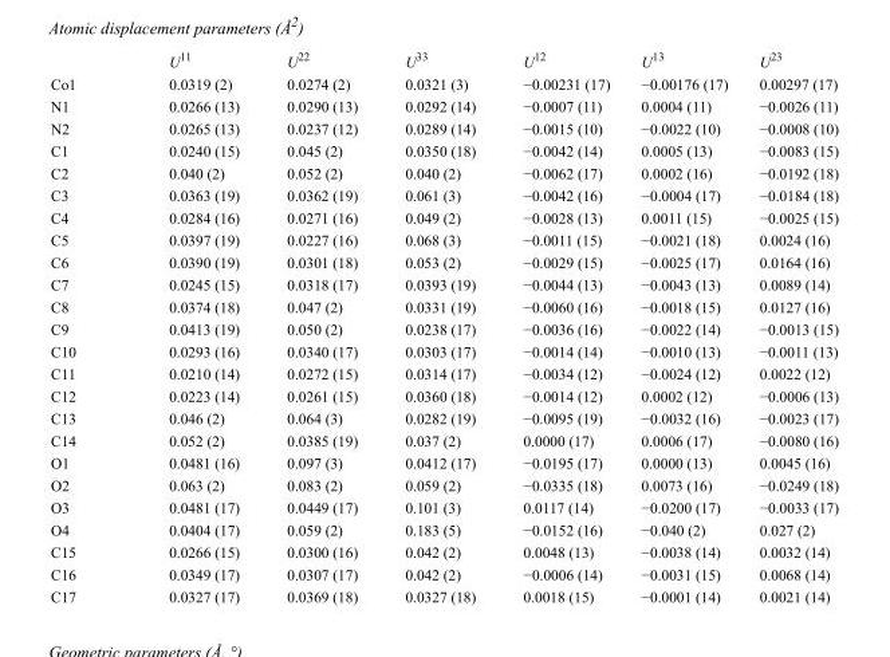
<table><thead><tr><td></td><td>U<sup>11</sup></td><td>U<sup>22</sup></td><td>U<sup>33</sup></td><td>U<sup>12</sup></td><td>U<sup>13</sup></td><td>U<sup>23</sup></td></tr></thead><tbody><tr><td>Co1</td><td>0.0319 (2)</td><td>0.0274 (2)</td><td>0.0321 (3)</td><td>−0.00231 (17)</td><td>−0.00176 (17)</td><td>0.00297 (17)</td></tr><tr><td>N1</td><td>0.0266 (13)</td><td>0.0290 (13)</td><td>0.0292 (14)</td><td>−0.0007 (11)</td><td>0.0004 (11)</td><td>−0.0026 (11)</td></tr><tr><td>N2</td><td>0.0265 (13)</td><td>0.0237 (12)</td><td>0.0289 (14)</td><td>−0.0015 (10)</td><td>−0.0022 (10)</td><td>−0.0008 (10)</td></tr><tr><td>C1</td><td>0.0240 (15)</td><td>0.045 (2)</td><td>0.0350 (18)</td><td>−0.0042 (14)</td><td>0.0005 (13)</td><td>−0.0083 (15)</td></tr><tr><td>C2</td><td>0.040 (2)</td><td>0.052 (2)</td><td>0.040 (2)</td><td>−0.0062 (17)</td><td>0.0002 (16)</td><td>−0.0192 (18)</td></tr><tr><td>C3</td><td>0.0363 (19)</td><td>0.0362 (19)</td><td>0.061 (3)</td><td>−0.0042 (16)</td><td>−0.0004 (17)</td><td>−0.0184 (18)</td></tr><tr><td>C4</td><td>0.0284 (16)</td><td>0.0271 (16)</td><td>0.049 (2)</td><td>−0.0028 (13)</td><td>0.0011 (15)</td><td>−0.0025 (15)</td></tr><tr><td>C5</td><td>0.0397 (19)</td><td>0.0227 (16)</td><td>0.068 (3)</td><td>−0.0011 (15)</td><td>−0.0021 (18)</td><td>0.0024 (16)</td></tr><tr><td>C6</td><td>0.0390 (19)</td><td>0.0301 (18)</td><td>0.053 (2)</td><td>−0.0029 (15)</td><td>−0.0025 (17)</td><td>0.0164 (16)</td></tr><tr><td>C7</td><td>0.0245 (15)</td><td>0.0318 (17)</td><td>0.0393 (19)</td><td>−0.0044 (13)</td><td>−0.0043 (13)</td><td>0.0089 (14)</td></tr><tr><td>C8</td><td>0.0374 (18)</td><td>0.047 (2)</td><td>0.0331 (19)</td><td>−0.0060 (16)</td><td>−0.0018 (15)</td><td>0.0127 (16)</td></tr><tr><td>C9</td><td>0.0413 (19)</td><td>0.050 (2)</td><td>0.0238 (17)</td><td>−0.0036 (16)</td><td>−0.0022 (14)</td><td>−0.0013 (15)</td></tr><tr><td>C10</td><td>0.0293 (16)</td><td>0.0340 (17)</td><td>0.0303 (17)</td><td>−0.0014 (14)</td><td>−0.0010 (13)</td><td>−0.0011 (13)</td></tr><tr><td>C11</td><td>0.0210 (14)</td><td>0.0272 (15)</td><td>0.0314 (17)</td><td>−0.0034 (12)</td><td>−0.0024 (12)</td><td>0.0022 (12)</td></tr><tr><td>C12</td><td>0.0223 (14)</td><td>0.0261 (15)</td><td>0.0360 (18)</td><td>−0.0014 (12)</td><td>0.0002 (12)</td><td>−0.0006 (13)</td></tr><tr><td>C13</td><td>0.046 (2)</td><td>0.064 (3)</td><td>0.0282 (19)</td><td>−0.0095 (19)</td><td>−0.0032 (16)</td><td>−0.0023 (17)</td></tr><tr><td>C14</td><td>0.052 (2)</td><td>0.0385 (19)</td><td>0.037 (2)</td><td>0.0000 (17)</td><td>0.0006 (17)</td><td>−0.0080 (16)</td></tr><tr><td>O1</td><td>0.0481 (16)</td><td>0.097 (3)</td><td>0.0412 (17)</td><td>−0.0195 (17)</td><td>0.0000 (13)</td><td>0.0045 (16)</td></tr><tr><td>O2</td><td>0.063 (2)</td><td>0.083 (2)</td><td>0.059 (2)</td><td>−0.0335 (18)</td><td>0.0073 (16)</td><td>−0.0249 (18)</td></tr><tr><td>O3</td><td>0.0481 (17)</td><td>0.0449 (17)</td><td>0.101 (3)</td><td>0.0117 (14)</td><td>−0.0200 (17)</td><td>−0.0033 (17)</td></tr><tr><td>O4</td><td>0.0404 (17)</td><td>0.059 (2)</td><td>0.183 (5)</td><td>−0.0152 (16)</td><td>−0.040 (2)</td><td>0.027 (2)</td></tr><tr><td>C15</td><td>0.0266 (15)</td><td>0.0300 (16)</td><td>0.042 (2)</td><td>0.0048 (13)</td><td>−0.0038 (14)</td><td>0.0032 (14)</td></tr><tr><td>C16</td><td>0.0349 (17)</td><td>0.0307 (17)</td><td>0.042 (2)</td><td>−0.0006 (14)</td><td>−0.0031 (15)</td><td>0.0068 (14)</td></tr><tr><td>C17</td><td>0.0327 (17)</td><td>0.0369 (18)</td><td>0.0327 (18)</td><td>0.0018 (15)</td><td>−0.0001 (14)</td><td>0.0021 (14)</td></tr></tbody></table>